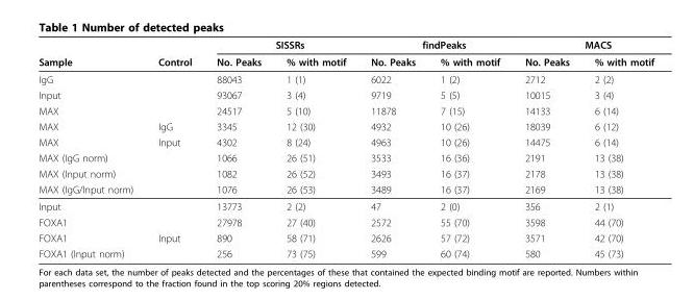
<table><thead><tr><td rowspan="2">Sample</td><td rowspan="2">Control</td><td colspan="2">SISSRs</td><td colspan="2">findPeaks</td><td colspan="2">MACS</td></tr><tr><td>No. Peaks</td><td>% with motif</td><td>No. Peaks</td><td>% with motif</td><td>No. Peaks</td><td>% with motif</td></tr></thead><tbody><tr><td>IgG</td><td></td><td>88043</td><td>1 (1)</td><td>6022</td><td>1 (2)</td><td>2712</td><td>2 (2)</td></tr><tr><td>Input</td><td></td><td>93067</td><td>3 (4)</td><td>9719</td><td>5 (5)</td><td>10015</td><td>3 (4)</td></tr><tr><td>MAX</td><td></td><td>24517</td><td>5 (10)</td><td>11878</td><td>7 (15)</td><td>14133</td><td>6 (14)</td></tr><tr><td>MAX</td><td>IgG</td><td>3345</td><td>12 (30)</td><td>4932</td><td>10 (26)</td><td>18039</td><td>6 (12)</td></tr><tr><td>MAX</td><td>Input</td><td>4302</td><td>8 (24)</td><td>4963</td><td>10 (26)</td><td>14475</td><td>6 (14)</td></tr><tr><td>MAX (IgG norm)</td><td></td><td>1066</td><td>26 (51)</td><td>3533</td><td>16 (36)</td><td>2191</td><td>13 (38)</td></tr><tr><td>MAX (Input norm)</td><td></td><td>1082</td><td>26 (52)</td><td>3493</td><td>16 (37)</td><td>2178</td><td>13 (38)</td></tr><tr><td>MAX (IgG/Input norm)</td><td></td><td>1076</td><td>26 (53)</td><td>3489</td><td>16 (37)</td><td>2169</td><td>13 (38)</td></tr><tr><td>Input</td><td></td><td>13773</td><td>2 (2)</td><td>47</td><td>2 (0)</td><td>356</td><td>2 (1)</td></tr><tr><td>FOXA1</td><td></td><td>27978</td><td>27 (40)</td><td>2572</td><td>55 (70)</td><td>3598</td><td>44 (70)</td></tr><tr><td>FOXA1</td><td>Input</td><td>890</td><td>58 (71)</td><td>2626</td><td>57 (72)</td><td>3571</td><td>42 (70)</td></tr><tr><td>FOXA1 (Input norm)</td><td></td><td>256</td><td>73 (75)</td><td>599</td><td>60 (74)</td><td>580</td><td>45 (73)</td></tr></tbody></table>